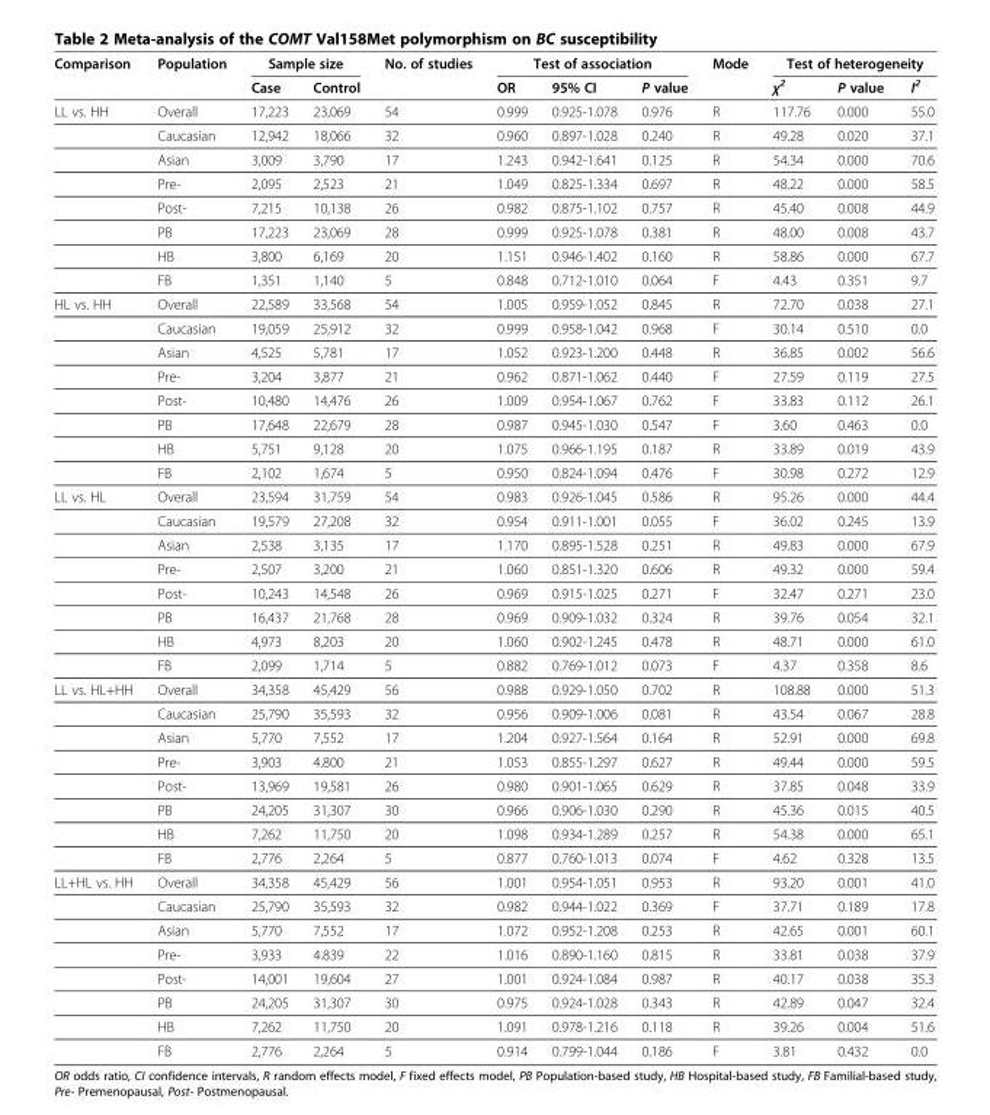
<table><thead><tr><td rowspan="2">Comparison</td><td rowspan="2">Population</td><td colspan="2">Sample size</td><td rowspan="2">No. of studies</td><td colspan="3">Test of association</td><td rowspan="2">Mode</td><td colspan="3">Test of heterogeneity</td></tr><tr><td>Case</td><td>Control</td><td>OR</td><td>95% CI</td><td>P value</td><td>χ<sup>2</sup></td><td>P value</td><td>I<sup>2</sup></td></tr></thead><tbody><tr><td rowspan="8">LL vs. HH</td><td>Overall</td><td>17,223</td><td>23,069</td><td>54</td><td>0.999</td><td>0.925-1.078</td><td>0.976</td><td>R</td><td>117.76</td><td>0.000</td><td>55.0</td></tr><tr><td>Caucasian</td><td>12,942</td><td>18,066</td><td>32</td><td>0.960</td><td>0.897-1.028</td><td>0.240</td><td>R</td><td>49.28</td><td>0.020</td><td>37.1</td></tr><tr><td>Asian</td><td>3,009</td><td>3,790</td><td>17</td><td>1.243</td><td>0.942-1.641</td><td>0.125</td><td>R</td><td>54.34</td><td>0.000</td><td>70.6</td></tr><tr><td>Pre-</td><td>2,095</td><td>2,523</td><td>21</td><td>1.049</td><td>0.825-1.334</td><td>0.697</td><td>R</td><td>48.22</td><td>0.000</td><td>58.5</td></tr><tr><td>Post-</td><td>7,215</td><td>10,138</td><td>26</td><td>0.982</td><td>0.875-1.102</td><td>0.757</td><td>R</td><td>45.40</td><td>0.008</td><td>44.9</td></tr><tr><td>PB</td><td>17,223</td><td>23,069</td><td>28</td><td>0.999</td><td>0.925-1.078</td><td>0.381</td><td>R</td><td>48.00</td><td>0.008</td><td>43.7</td></tr><tr><td>HB</td><td>3,800</td><td>6,169</td><td>20</td><td>1.151</td><td>0.946-1.402</td><td>0.160</td><td>R</td><td>58.86</td><td>0.000</td><td>67.7</td></tr><tr><td>FB</td><td>1,351</td><td>1,140</td><td>5</td><td>0.848</td><td>0.712-1.010</td><td>0.064</td><td>F</td><td>4.43</td><td>0.351</td><td>9.7</td></tr><tr><td rowspan="8">HL vs. HH</td><td>Overall</td><td>22,589</td><td>33,568</td><td>54</td><td>1.005</td><td>0.959-1.052</td><td>0.845</td><td>R</td><td>72.70</td><td>0.038</td><td>27.1</td></tr><tr><td>Caucasian</td><td>19,059</td><td>25,912</td><td>32</td><td>0.999</td><td>0.958-1.042</td><td>0.968</td><td>F</td><td>30.14</td><td>0.510</td><td>0.0</td></tr><tr><td>Asian</td><td>4,525</td><td>5,781</td><td>17</td><td>1.052</td><td>0.923-1.200</td><td>0.448</td><td>R</td><td>36.85</td><td>0.002</td><td>56.6</td></tr><tr><td>Pre-</td><td>3,204</td><td>3,877</td><td>21</td><td>0.962</td><td>0.871-1.062</td><td>0.440</td><td>F</td><td>27.59</td><td>0.119</td><td>27.5</td></tr><tr><td>Post-</td><td>10,480</td><td>14,476</td><td>26</td><td>1.009</td><td>0.954-1.067</td><td>0.762</td><td>F</td><td>33.83</td><td>0.112</td><td>26.1</td></tr><tr><td>PB</td><td>17,648</td><td>22,679</td><td>28</td><td>0.987</td><td>0.945-1.030</td><td>0.547</td><td>F</td><td>3.60</td><td>0.463</td><td>0.0</td></tr><tr><td>HB</td><td>5,751</td><td>9,128</td><td>20</td><td>1.075</td><td>0.966-1.195</td><td>0.187</td><td>R</td><td>33.89</td><td>0.019</td><td>43.9</td></tr><tr><td>FB</td><td>2,102</td><td>1,674</td><td>5</td><td>0.950</td><td>0.824-1.094</td><td>0.476</td><td>F</td><td>30.98</td><td>0.272</td><td>12.9</td></tr><tr><td rowspan="8">LL vs. HL</td><td>Overall</td><td>23,594</td><td>31,759</td><td>54</td><td>0.983</td><td>0.926-1.045</td><td>0.586</td><td>R</td><td>95.26</td><td>0.000</td><td>44.4</td></tr><tr><td>Caucasian</td><td>19,579</td><td>27,208</td><td>32</td><td>0.954</td><td>0.911-1.001</td><td>0.055</td><td>F</td><td>36.02</td><td>0.245</td><td>13.9</td></tr><tr><td>Asian</td><td>2,538</td><td>3,135</td><td>17</td><td>1.170</td><td>0.895-1.528</td><td>0.251</td><td>R</td><td>49.83</td><td>0.000</td><td>67.9</td></tr><tr><td>Pre-</td><td>2,507</td><td>3,200</td><td>21</td><td>1.060</td><td>0.851-1.320</td><td>0.606</td><td>R</td><td>49.32</td><td>0.000</td><td>59.4</td></tr><tr><td>Post-</td><td>10,243</td><td>14,548</td><td>26</td><td>0.969</td><td>0.915-1.025</td><td>0.271</td><td>F</td><td>32.47</td><td>0.271</td><td>23.0</td></tr><tr><td>PB</td><td>16,437</td><td>21,768</td><td>28</td><td>0.969</td><td>0.909-1.032</td><td>0.324</td><td>R</td><td>39.76</td><td>0.054</td><td>32.1</td></tr><tr><td>HB</td><td>4,973</td><td>8,203</td><td>20</td><td>1.060</td><td>0.902-1.245</td><td>0.478</td><td>R</td><td>48.71</td><td>0.000</td><td>61.0</td></tr><tr><td>FB</td><td>2,099</td><td>1,714</td><td>5</td><td>0.882</td><td>0.769-1.012</td><td>0.073</td><td>F</td><td>4.37</td><td>0.358</td><td>8.6</td></tr><tr><td rowspan="8">LL vs. HL+HH</td><td>Overall</td><td>34,358</td><td>45,429</td><td>56</td><td>0.988</td><td>0.929-1.050</td><td>0.702</td><td>R</td><td>108.88</td><td>0.000</td><td>51.3</td></tr><tr><td>Caucasian</td><td>25,790</td><td>35,593</td><td>32</td><td>0.956</td><td>0.909-1.006</td><td>0.081</td><td>R</td><td>43.54</td><td>0.067</td><td>28.8</td></tr><tr><td>Asian</td><td>5,770</td><td>7,552</td><td>17</td><td>1.204</td><td>0.927-1.564</td><td>0.164</td><td>R</td><td>52.91</td><td>0.000</td><td>69.8</td></tr><tr><td>Pre-</td><td>3,903</td><td>4.800</td><td>21</td><td>1.053</td><td>0.855-1.297</td><td>0.627</td><td>R</td><td>49.44</td><td>0.000</td><td>59.5</td></tr><tr><td>Post-</td><td>13,969</td><td>19,581</td><td>26</td><td>0.980</td><td>0.901-1.065</td><td>0.629</td><td>R</td><td>37.85</td><td>0.048</td><td>33.9</td></tr><tr><td>PB</td><td>24,205</td><td>31,307</td><td>30</td><td>0.966</td><td>0.906-1.030</td><td>0.290</td><td>R</td><td>45.36</td><td>0.015</td><td>40.5</td></tr><tr><td>HB</td><td>7,262</td><td>11,750</td><td>20</td><td>1.098</td><td>0.934-1.289</td><td>0.257</td><td>R</td><td>54.38</td><td>0.000</td><td>65.1</td></tr><tr><td>FB</td><td>2,776</td><td>2,264</td><td>5</td><td>0.877</td><td>0.760-1.013</td><td>0.074</td><td>F</td><td>4.62</td><td>0.328</td><td>13.5</td></tr><tr><td rowspan="8">LL+HL vs. HH</td><td>Overall</td><td>34,358</td><td>45,429</td><td>56</td><td>1.001</td><td>0.954-1.051</td><td>0.953</td><td>R</td><td>93.20</td><td>0.001</td><td>41.0</td></tr><tr><td>Caucasian</td><td>25,790</td><td>35,593</td><td>32</td><td>0.982</td><td>0.944-1.022</td><td>0.369</td><td>F</td><td>37.71</td><td>0.189</td><td>17.8</td></tr><tr><td>Asian</td><td>5,770</td><td>7,552</td><td>17</td><td>1.072</td><td>0.952-1.208</td><td>0.253</td><td>R</td><td>42.65</td><td>0.001</td><td>60.1</td></tr><tr><td>Pre-</td><td>3,933</td><td>4.839</td><td>22</td><td>1.016</td><td>0.890-1.160</td><td>0.815</td><td>R</td><td>33.81</td><td>0.038</td><td>37.9</td></tr><tr><td>Post-</td><td>14,001</td><td>19,604</td><td>27</td><td>1.001</td><td>0.924-1.084</td><td>0.987</td><td>R</td><td>40.17</td><td>0.038</td><td>35.3</td></tr><tr><td>PB</td><td>24,205</td><td>31,307</td><td>30</td><td>0.975</td><td>0.924-1.028</td><td>0.343</td><td>R</td><td>42.89</td><td>0.047</td><td>32.4</td></tr><tr><td>HB</td><td>7,262</td><td>11,750</td><td>20</td><td>1.091</td><td>0.978-1.216</td><td>0.118</td><td>R</td><td>39.26</td><td>0.004</td><td>51.6</td></tr><tr><td>FB</td><td>2,776</td><td>2,264</td><td>5</td><td>0.914</td><td>0.799-1.044</td><td>0.186</td><td>F</td><td>3.81</td><td>0.432</td><td>0.0</td></tr></tbody></table>